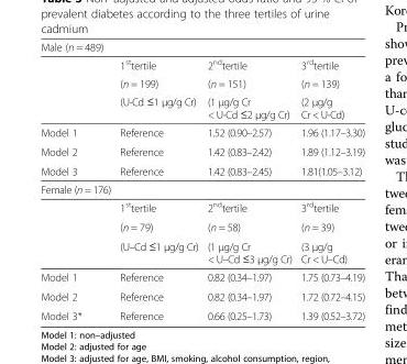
<table><thead><tr><td colspan="4">Male (n = 489)</td></tr><tr><td rowspan="3"></td><td rowspan="3">1sttertile (n = 199) (U-Cd ≤1 μg/g Cr)</td><td rowspan="3">2ndtertile (n = 151) (1 μg/g Cr &lt; U-Cd ≤2 μg/g Cr)</td><td rowspan="3">3rdtertile (n = 139) (2 μg/g Cr &lt; U-Cd)</td></tr><tr></tr><tr></tr></thead><tbody><tr><td>Model 1</td><td>Reference</td><td>1.52 (0.90–2.57)</td><td>1.96 (1.17–3.30)</td></tr><tr><td>Model 2</td><td>Reference</td><td>1.42 (0.83–2.42)</td><td>1.89 (1.12–3.19)</td></tr><tr><td>Model 3</td><td>Reference</td><td>1.42 (0.83–2.45)</td><td>1.81(1.05–3.12)</td></tr><tr><td colspan="4">Female (n = 176)</td></tr><tr><td rowspan="3"></td><td>1<sup>st</sup>tertile</td><td>2<sup>nd</sup>tertile</td><td>3<sup>rd</sup>tertile</td></tr><tr><td>(n = 79)</td><td>(n = 58)</td><td>(n = 39)</td></tr><tr><td>(U–Cd ≤1 μg/g Cr)</td><td>(1 μg/g Cr &lt; U–Cd ≤3 μg/g Cr)</td><td>(3 μg/g Cr &lt; U–Cd)</td></tr><tr><td>Model 1</td><td>Reference</td><td>0.82 (0.34–1.97)</td><td>1.75 (0.73–4.19)</td></tr><tr><td>Model 2</td><td>Reference</td><td>0.82 (0.34–1.97)</td><td>1.72 (0.72–4.15)</td></tr><tr><td>Model 3*</td><td>Reference</td><td>0.66 (0.25–1.73)</td><td>1.39 (0.52–3.72)</td></tr></tbody></table>